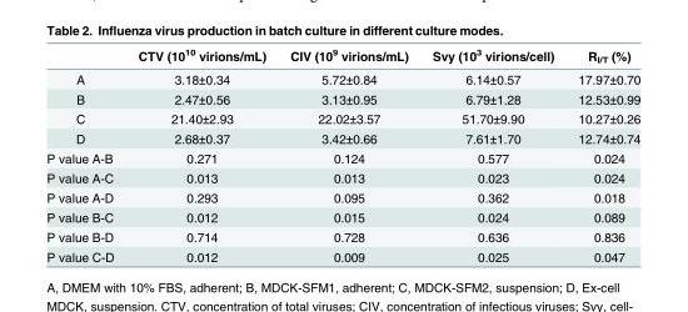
<table><thead><tr><td></td><td>CTV (10<sup>10</sup> virions/mL)</td><td>CIV (10<sup>9</sup> virions/mL)</td><td>Svy (10<sup>3</sup> virions/cell)</td><td>R<sub>I/T</sub> (%)</td></tr></thead><tbody><tr><td>A</td><td>3.18±0.34</td><td>5.72±0.84</td><td>6.14±0.57</td><td>17.97±0.70</td></tr><tr><td>B</td><td>2.47±0.56</td><td>3.13±0.95</td><td>6.79±1.28</td><td>12.53±0.99</td></tr><tr><td>C</td><td>21.40±2.93</td><td>22.02±3.57</td><td>51.70±9.90</td><td>10.27±0.26</td></tr><tr><td>D</td><td>2.68±0.37</td><td>3.42±0.66</td><td>7.61±1.70</td><td>12.74±0.74</td></tr><tr><td>P value A-B</td><td>0.271</td><td>0.124</td><td>0.577</td><td>0.024</td></tr><tr><td>P value A-C</td><td>0.013</td><td>0.013</td><td>0.023</td><td>0.024</td></tr><tr><td>P value A-D</td><td>0.293</td><td>0.095</td><td>0.362</td><td>0.018</td></tr><tr><td>P value B-C</td><td>0.012</td><td>0.015</td><td>0.024</td><td>0.089</td></tr><tr><td>P value B-D</td><td>0.714</td><td>0.728</td><td>0.636</td><td>0.836</td></tr><tr><td>P value C-D</td><td>0.012</td><td>0.009</td><td>0.025</td><td>0.047</td></tr></tbody></table>